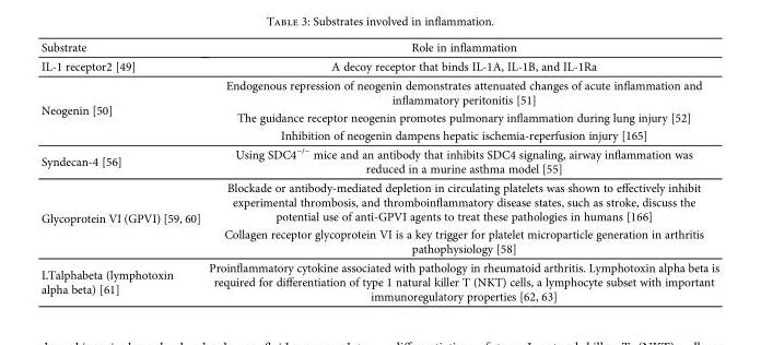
<table><thead><tr><td>Substrate</td><td>Role in inflammation</td></tr></thead><tbody><tr><td>IL-1 receptor2 [49]</td><td>A decoy receptor that binds IL-1A, IL-1B, and IL-1Ra</td></tr><tr><td rowspan="3">Neogenin [50]</td><td>Endogenous repression of neogenin demonstrates attenuated changes of acute inflammation and inflammatory peritonitis [51]</td></tr><tr><td>The guidance receptor neogenin promotes pulmonary inflammation during lung injury [52]</td></tr><tr><td>Inhibition of neogenin dampens hepatic ischemia-reperfusion injury [165]</td></tr><tr><td>Syndecan-4 [56]</td><td>Using SDC4<sup>−/−</sup> mice and an antibody that inhibits SDC4 signaling, airway inflammation was reduced in a murine asthma model [55]</td></tr><tr><td rowspan="2">Glycoprotein VI (GPVI) [59, 60]</td><td>Blockade or antibody-mediated depletion in circulating platelets was shown to effectively inhibit experimental thrombosis, and thromboinflammatory disease states, such as stroke, discuss the potential use of anti-GPVI agents to treat these pathologies in humans [166]</td></tr><tr><td>Collagen receptor glycoprotein VI is a key trigger for platelet microparticle generation in arthritis pathophysiology [58]</td></tr><tr><td>LTalphabeta (lymphotoxin alpha beta) [61]</td><td>Proinflammatory cytokine associated with pathology in rheumatoid arthritis. Lymphotoxin alpha beta is required for differentiation of type 1 natural killer T (NKT) cells, a lymphocyte subset with important immunoregulatory properties [62, 63]</td></tr></tbody></table>